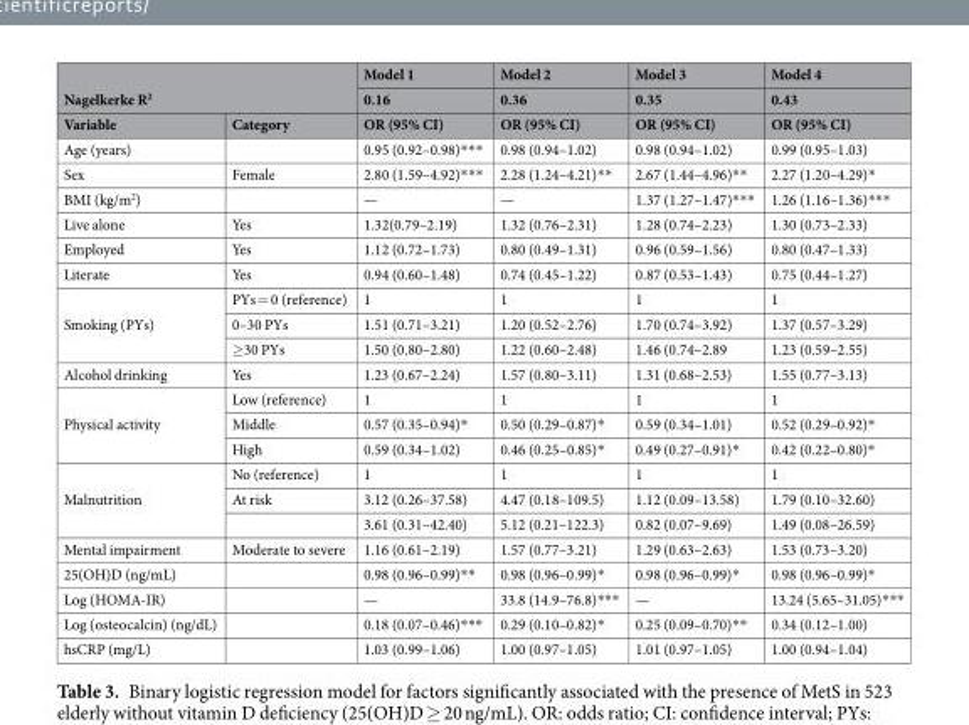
<table><thead><tr><td rowspan="2" colspan="2">Nagelkerke R<sup>2</sup></td><td rowspan="3">Model 1 0.16 OR (95% CI)</td><td rowspan="3">Model 2 0.36 OR (95% CI)</td><td rowspan="3">Model 3 0.35 OR (95% CI)</td><td rowspan="3">Model 4 0.43 OR (95% CI)</td></tr><tr></tr><tr><td>Variable</td><td>Category</td></tr></thead><tbody><tr><td>Age (years)</td><td></td><td>0.95 (0.92–0.98)***</td><td>0.98 (0.94–1.02)</td><td>0.98 (0.94–1.02)</td><td>0.99 (0.95–1.03)</td></tr><tr><td>Sex</td><td>Female</td><td>2.80 (1.59–4.92)***</td><td>2.28 (1.24–4.21)**</td><td>2.67 (1.44–4.96)**</td><td>2.27 (1.20–4.29)*</td></tr><tr><td>BMI (kg/m<sup>2</sup>)</td><td></td><td>—</td><td>—</td><td>1.37 (1.27–1.47)***</td><td>1.26 (1.16–1.36)***</td></tr><tr><td>Live alone</td><td>Yes</td><td>1.32(0.79–2.19)</td><td>1.32 (0.76–2.31)</td><td>1.28 (0.74–2.23)</td><td>1.30 (0.73–2.33)</td></tr><tr><td>Employed</td><td>Yes</td><td>1.12 (0.72–1.73)</td><td>0.80 (0.49–1.31)</td><td>0.96 (0.59–1.56)</td><td>0.80 (0.47–1.33)</td></tr><tr><td>Literate</td><td>Yes</td><td>0.94 (0.60–1.48)</td><td>0.74 (0.45–1.22)</td><td>0.87 (0.53–1.43)</td><td>0.75 (0.44–1.27)</td></tr><tr><td rowspan="3">Smoking (PYs)</td><td>PYs = 0 (reference)</td><td>1</td><td>1</td><td>1</td><td>1</td></tr><tr><td>0–30 PYs</td><td>1.51 (0.71–3.21)</td><td>1.20 (0.52–2.76)</td><td>1.70 (0.74–3.92)</td><td>1.37 (0.57–3.29)</td></tr><tr><td>≥30 PYs</td><td>1.50 (0.80–2.80)</td><td>1.22 (0.60–2.48)</td><td>1.46 (0.74–2.89</td><td>1.23 (0.59–2.55)</td></tr><tr><td>Alcohol drinking</td><td>Yes</td><td>1.23 (0.67–2.24)</td><td>1.57 (0.80–3.11)</td><td>1.31 (0.68–2.53)</td><td>1.55 (0.77–3.13)</td></tr><tr><td rowspan="3">Physical activity</td><td>Low (reference)</td><td>1</td><td>1</td><td>1</td><td>1</td></tr><tr><td>Middle</td><td>0.57 (0.35–0.94)*</td><td>0.50 (0.29–0.87)*</td><td>0.59 (0.34–1.01)</td><td>0.52 (0.29–0.92)*</td></tr><tr><td>High</td><td>0.59 (0.34–1.02)</td><td>0.46 (0.25–0.85)*</td><td>0.49 (0.27–0.91)*</td><td>0.42 (0.22–0.80)*</td></tr><tr><td rowspan="3">Malnutrition</td><td>No (reference)</td><td>1</td><td>1</td><td>1</td><td>1</td></tr><tr><td>At risk</td><td>3.12 (0.26–37.58)</td><td>4.47 (0.18–109.5)</td><td>1.12 (0.09–13.58)</td><td>1.79 (0.10–32.60)</td></tr><tr><td></td><td>3.61 (0.31–42.40)</td><td>5.12 (0.21–122.3)</td><td>0.82 (0.07–9.69)</td><td>1.49 (0.08–26.59)</td></tr><tr><td>Mental impairment</td><td>Moderate to severe</td><td>1.16 (0.61–2.19)</td><td>1.57 (0.77–3.21)</td><td>1.29 (0.63–2.63)</td><td>1.53 (0.73–3.20)</td></tr><tr><td>25(OH)D (ng/mL)</td><td></td><td>0.98 (0.96–0.99)**</td><td>0.98 (0.96–0.99)*</td><td>0.98 (0.96–0.99)*</td><td>0.98 (0.96–0.99)*</td></tr><tr><td>Log (HOMA-IR)</td><td></td><td>—</td><td>33.8 (14.9–76.8)***</td><td>—</td><td>13.24 (5.65–31.05)***</td></tr><tr><td>Log (osteocalcin) (ng/dL)</td><td></td><td>0.18 (0.07–0.46)***</td><td>0.29 (0.10–0.82)*</td><td>0.25 (0.09–0.70)**</td><td>0.34 (0.12–1.00)</td></tr><tr><td>hsCRP (mg/L)</td><td></td><td>1.03 (0.99–1.06)</td><td>1.00 (0.97–1.05)</td><td>1.01 (0.97–1.05)</td><td>1.00 (0.94–1.04)</td></tr></tbody></table>